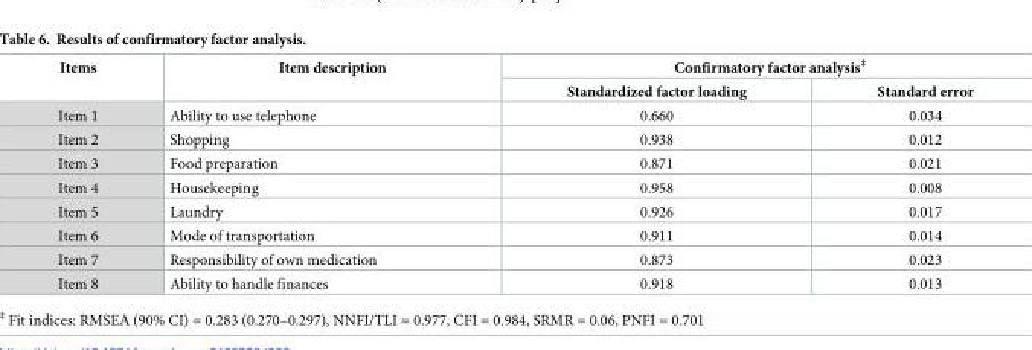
<table><thead><tr><td rowspan="2">Items</td><td rowspan="2">Item description</td><td colspan="2">Confirmatory factor analysis<sup>‡</sup></td></tr><tr><td>Standardized factor loading</td><td>Standard error</td></tr></thead><tbody><tr><td>Item 1</td><td>Ability to use telephone</td><td>0.660</td><td>0.034</td></tr><tr><td>Item 2</td><td>Shopping</td><td>0.938</td><td>0.012</td></tr><tr><td>Item 3</td><td>Food preparation</td><td>0.871</td><td>0.021</td></tr><tr><td>Item 4</td><td>Housekeeping</td><td>0.958</td><td>0.008</td></tr><tr><td>Item 5</td><td>Laundry</td><td>0.926</td><td>0.017</td></tr><tr><td>Item 6</td><td>Mode of transportation</td><td>0.911</td><td>0.014</td></tr><tr><td>Item 7</td><td>Responsibility of own medication</td><td>0.873</td><td>0.023</td></tr><tr><td>Item 8</td><td>Ability to handle finances</td><td>0.918</td><td>0.013</td></tr></tbody></table>